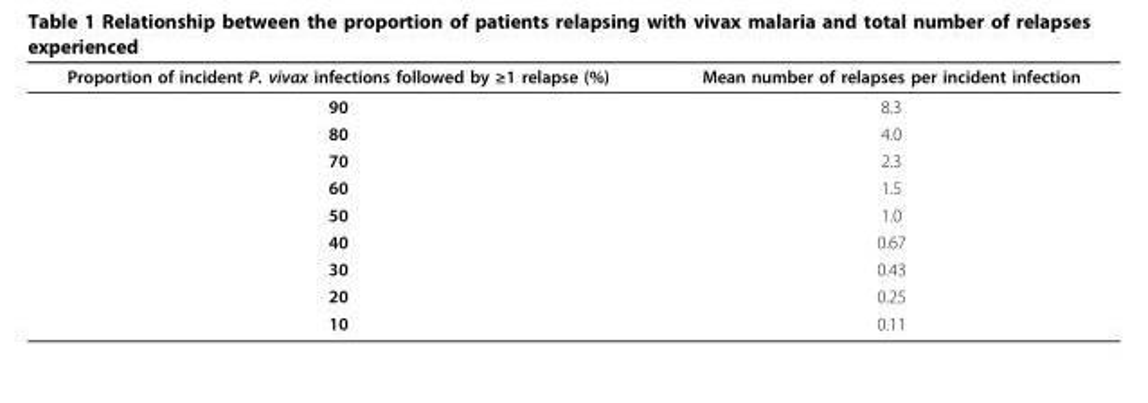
<table><thead><tr><td>Proportion of incident P. vivax infections followed by ≥1 relapse (%)</td><td>Mean number of relapses per incident infection</td></tr></thead><tbody><tr><td>90</td><td>8.3</td></tr><tr><td>80</td><td>4.0</td></tr><tr><td>70</td><td>2.3</td></tr><tr><td>60</td><td>1.5</td></tr><tr><td>50</td><td>1.0</td></tr><tr><td>40</td><td>0.67</td></tr><tr><td>30</td><td>0.43</td></tr><tr><td>20</td><td>0.25</td></tr><tr><td>10</td><td>0.11</td></tr></tbody></table>